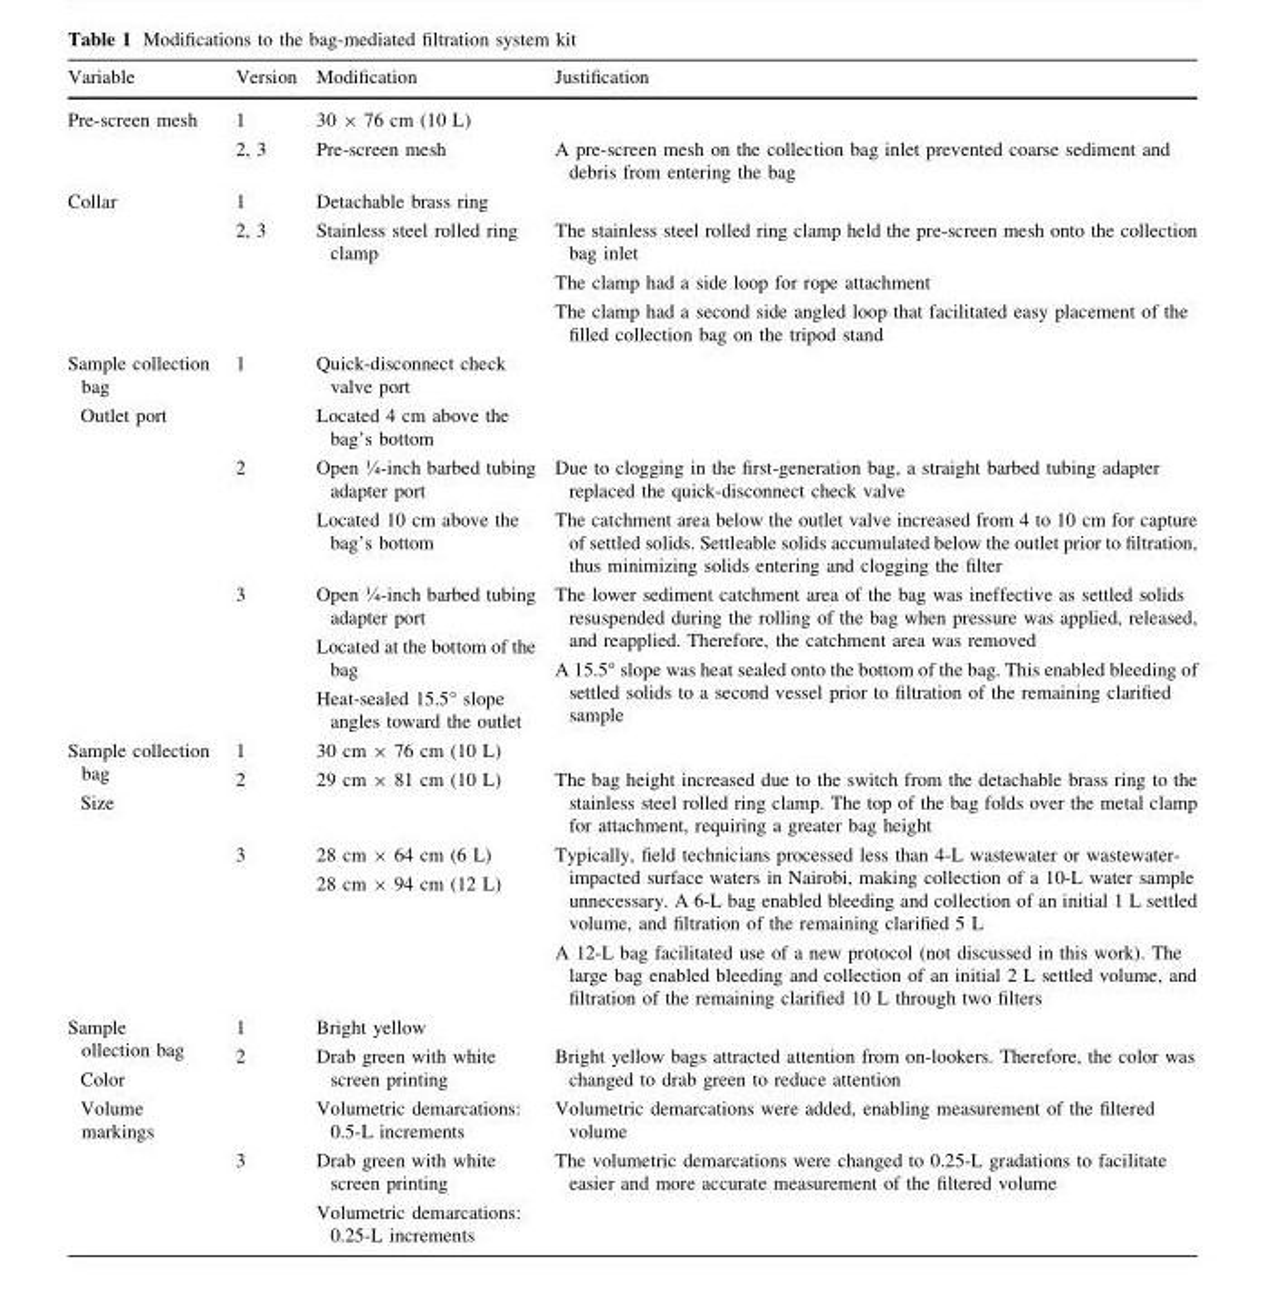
<table><thead><tr><td>Variable</td><td>Version</td><td>Modification</td><td>Justification</td></tr></thead><tbody><tr><td rowspan="2">Pre-screen mesh</td><td>1</td><td>30 × 76 cm (10 L)</td><td></td></tr><tr><td>2, 3</td><td>Pre-screen mesh</td><td>A pre-screen mesh on the collection bag inlet prevented coarse sediment and debris from entering the bag</td></tr><tr><td rowspan="2">Collar</td><td>1</td><td>Detachable brass ring</td><td></td></tr><tr><td>2, 3</td><td>Stainless steel rolled ring clamp</td><td>The stainless steel rolled ring clamp held the pre-screen mesh onto the collection bag inlet The clamp had a side loop for rope attachment The clamp had a second side angled loop that facilitated easy placement of the filled collection bag on the tripod stand</td></tr><tr><td rowspan="3">Sample collection bag Outlet port</td><td>1</td><td>Quick-disconnect check valve port Located 4 cm above the bag’s bottom</td><td></td></tr><tr><td>2</td><td>Open ¼-inch barbed tubing adapter port Located 10 cm above the bag’s bottom</td><td>Due to clogging in the first-generation bag, a straight barbed tubing adapter replaced the quick-disconnect check valve The catchment area below the outlet valve increased from 4 to 10 cm for capture of settled solids. Settleable solids accumulated below the outlet prior to filtration, thus minimizing solids entering and clogging the filter</td></tr><tr><td>3</td><td>Open ¼-inch barbed tubing adapter port Located at the bottom of the bag Heat-sealed 15.5° slope angles toward the outlet</td><td>The lower sediment catchment area of the bag was ineffective as settled solids resuspended during the rolling of the bag when pressure was applied, released, and reapplied. Therefore, the catchment area was removed A 15.5° slope was heat sealed onto the bottom of the bag. This enabled bleeding of settled solids to a second vessel prior to filtration of the remaining clarified sample</td></tr><tr><td rowspan="3">Sample collection bag Size</td><td>1</td><td>30 cm × 76 cm (10 L)</td><td></td></tr><tr><td>2</td><td>29 cm × 81 cm (10 L)</td><td>The bag height increased due to the switch from the detachable brass ring to the stainless steel rolled ring clamp. The top of the bag folds over the metal clamp for attachment, requiring a greater bag height</td></tr><tr><td>3</td><td>28 cm × 64 cm (6 L) 28 cm × 94 cm (12 L)</td><td>Typically, field technicians processed less than 4-L wastewater or wastewater- impacted surface waters in Nairobi, making collection of a 10-L water sample unnecessary. A 6-L bag enabled bleeding and collection of an initial 1 L settled volume, and filtration of the remaining clarified 5 L A 12-L bag facilitated use of a new protocol (not discussed in this work). The large bag enabled bleeding and collection of an initial 2 L settled volume, and filtration of the remaining clarified 10 L through two filters</td></tr><tr><td rowspan="3">Sample ollection bag Color Volume markings</td><td>1</td><td>Bright yellow</td><td></td></tr><tr><td>2</td><td>Drab green with white screen printing Volumetric demarcations: 0.5-L increments</td><td>Bright yellow bags attracted attention from on-lookers. Therefore, the color was changed to drab green to reduce attention Volumetric demarcations were added, enabling measurement of the filtered volume</td></tr><tr><td>3</td><td>Drab green with white screen printing Volumetric demarcations: 0.25-L increments</td><td>The volumetric demarcations were changed to 0.25-L gradations to facilitate easier and more accurate measurement of the filtered volume</td></tr></tbody></table>